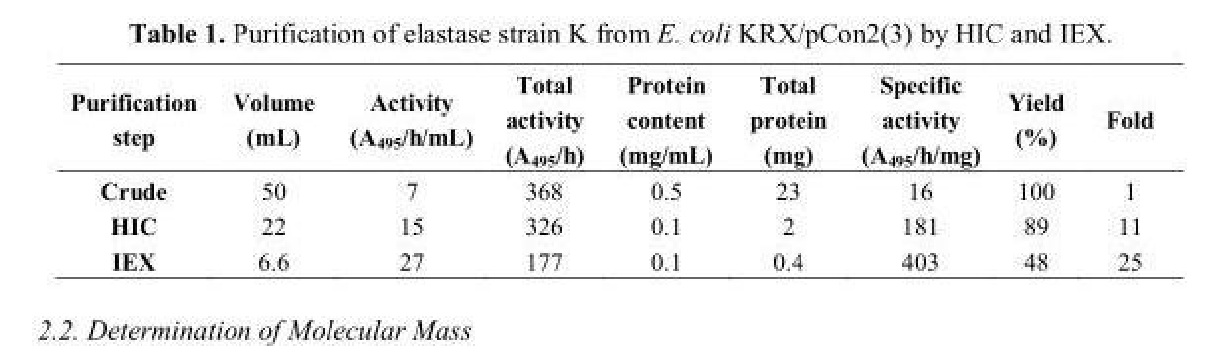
<table><thead><tr><td>Purification step</td><td>Volume (mL)</td><td>Activity (A<sub>495</sub>/h/mL)</td><td>Total activity (A<sub>495</sub>/h)</td><td>Protein content (mg/mL)</td><td>Total protein (mg)</td><td>Specific activity (A<sub>495</sub>/h/mg)</td><td>Yield (%)</td><td>Fold</td></tr></thead><tbody><tr><td>Crude</td><td>50</td><td>7</td><td>368</td><td>0.5</td><td>23</td><td>16</td><td>100</td><td>1</td></tr><tr><td>HIC</td><td>22</td><td>15</td><td>326</td><td>0.1</td><td>2</td><td>181</td><td>89</td><td>11</td></tr><tr><td>IEX</td><td>6.6</td><td>27</td><td>177</td><td>0.1</td><td>0.4</td><td>403</td><td>48</td><td>25</td></tr></tbody></table>